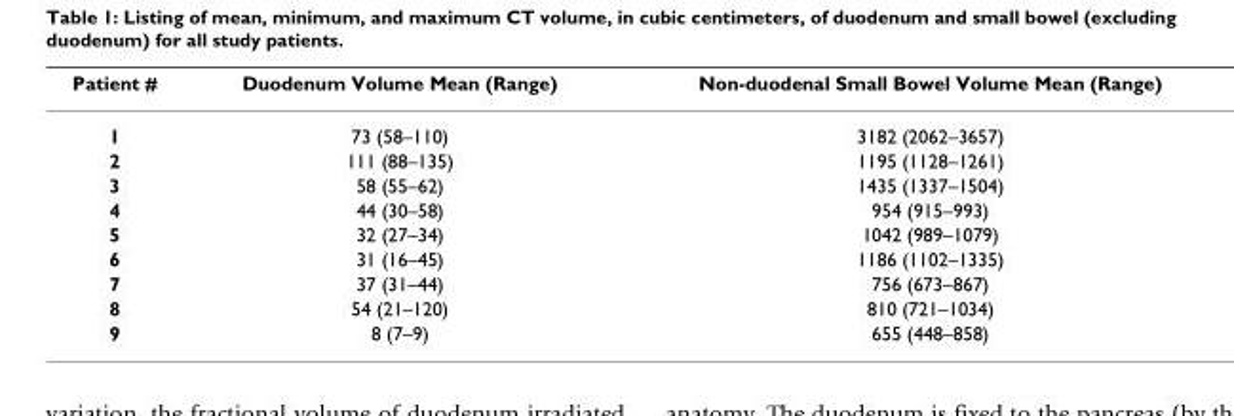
<table><thead><tr><td>Patient #</td><td>Duodenum Volume Mean (Range)</td><td>Non-duodenal Small Bowel Volume Mean (Range)</td></tr></thead><tbody><tr><td>1</td><td>73 (58–110)</td><td>3182 (2062–3657)</td></tr><tr><td>2</td><td>111 (88–135)</td><td>1195 (1128–1261)</td></tr><tr><td>3</td><td>58 (55–62)</td><td>1435 (1337–1504)</td></tr><tr><td>4</td><td>44 (30–58)</td><td>954 (915–993)</td></tr><tr><td>5</td><td>32 (27–34)</td><td>1042 (989–1079)</td></tr><tr><td>6</td><td>31 (16–45)</td><td>1186 (1102–1335)</td></tr><tr><td>7</td><td>37 (31–44)</td><td>756 (673–867)</td></tr><tr><td>8</td><td>54 (21–120)</td><td>810 (721–1034)</td></tr><tr><td>9</td><td>8 (7–9)</td><td>655 (448–858)</td></tr></tbody></table>